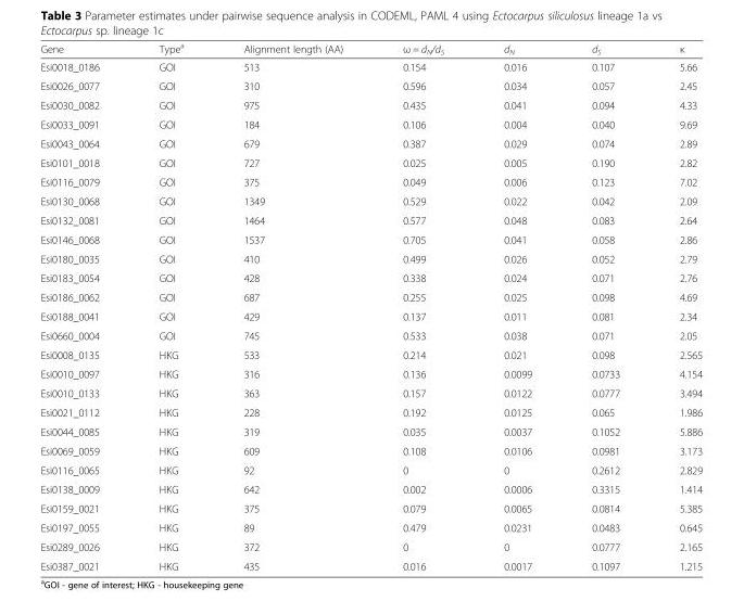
<table><thead><tr><td>Gene</td><td>Type<sup>a</sup></td><td>Alignment length (AA)</td><td>ω = d<sub>N</sub>/d<sub>S</sub></td><td>d<sub>N</sub></td><td>d<sub>S</sub></td><td>κ</td></tr></thead><tbody><tr><td>Esi0018_0186</td><td>GOI</td><td>513</td><td>0.154</td><td>0.016</td><td>0.107</td><td>5.66</td></tr><tr><td>Esi0026_0077</td><td>GOI</td><td>310</td><td>0.596</td><td>0.034</td><td>0.057</td><td>2.45</td></tr><tr><td>Esi0030_0082</td><td>GOI</td><td>975</td><td>0.435</td><td>0.041</td><td>0.094</td><td>4.33</td></tr><tr><td>Esi0033_0091</td><td>GOI</td><td>184</td><td>0.106</td><td>0.004</td><td>0.040</td><td>9.69</td></tr><tr><td>Esi0043_0064</td><td>GOI</td><td>679</td><td>0.387</td><td>0.029</td><td>0.074</td><td>2.89</td></tr><tr><td>Esi0101_0018</td><td>GOI</td><td>727</td><td>0.025</td><td>0.005</td><td>0.190</td><td>2.82</td></tr><tr><td>Esi0116_0079</td><td>GOI</td><td>375</td><td>0.049</td><td>0.006</td><td>0.123</td><td>7.02</td></tr><tr><td>Esi0130_0068</td><td>GOI</td><td>1349</td><td>0.529</td><td>0.022</td><td>0.042</td><td>2.09</td></tr><tr><td>Esi0132_0081</td><td>GOI</td><td>1464</td><td>0.577</td><td>0.048</td><td>0.083</td><td>2.64</td></tr><tr><td>Esi0146_0068</td><td>GOI</td><td>1537</td><td>0.705</td><td>0.041</td><td>0.058</td><td>2.86</td></tr><tr><td>Esi0180_0035</td><td>GOI</td><td>410</td><td>0.499</td><td>0.026</td><td>0.052</td><td>2.79</td></tr><tr><td>Esi0183_0054</td><td>GOI</td><td>428</td><td>0.338</td><td>0.024</td><td>0.071</td><td>2.76</td></tr><tr><td>Esi0186_0062</td><td>GOI</td><td>687</td><td>0.255</td><td>0.025</td><td>0.098</td><td>4.69</td></tr><tr><td>Esi0188_0041</td><td>GOI</td><td>429</td><td>0.137</td><td>0.011</td><td>0.081</td><td>2.34</td></tr><tr><td>Esi0660_0004</td><td>GOI</td><td>745</td><td>0.533</td><td>0.038</td><td>0.071</td><td>2.05</td></tr><tr><td>Esi0008_0135</td><td>HKG</td><td>533</td><td>0.214</td><td>0.021</td><td>0.098</td><td>2.565</td></tr><tr><td>Esi0010_0097</td><td>HKG</td><td>316</td><td>0.136</td><td>0.0099</td><td>0.0733</td><td>4.154</td></tr><tr><td>Esi0010_0133</td><td>HKG</td><td>363</td><td>0.157</td><td>0.0122</td><td>0.0777</td><td>3.494</td></tr><tr><td>Esi0021_0112</td><td>HKG</td><td>228</td><td>0.192</td><td>0.0125</td><td>0.065</td><td>1.986</td></tr><tr><td>Esi0044_0085</td><td>HKG</td><td>319</td><td>0.035</td><td>0.0037</td><td>0.1052</td><td>5.886</td></tr><tr><td>Esi0069_0059</td><td>HKG</td><td>609</td><td>0.108</td><td>0.0106</td><td>0.0981</td><td>3.173</td></tr><tr><td>Esi0116_0065</td><td>HKG</td><td>92</td><td>0</td><td>0</td><td>0.2612</td><td>2.829</td></tr><tr><td>Esi0138_0009</td><td>HKG</td><td>642</td><td>0.002</td><td>0.0006</td><td>0.3315</td><td>1.414</td></tr><tr><td>Esi0159_0021</td><td>HKG</td><td>375</td><td>0.079</td><td>0.0065</td><td>0.0814</td><td>5.385</td></tr><tr><td>Esi0197_0055</td><td>HKG</td><td>89</td><td>0.479</td><td>0.0231</td><td>0.0483</td><td>0.645</td></tr><tr><td>Esi0289_0026</td><td>HKG</td><td>372</td><td>0</td><td>0</td><td>0.0777</td><td>2.165</td></tr><tr><td>Esi0387_0021</td><td>HKG</td><td>435</td><td>0.016</td><td>0.0017</td><td>0.1097</td><td>1.215</td></tr></tbody></table>